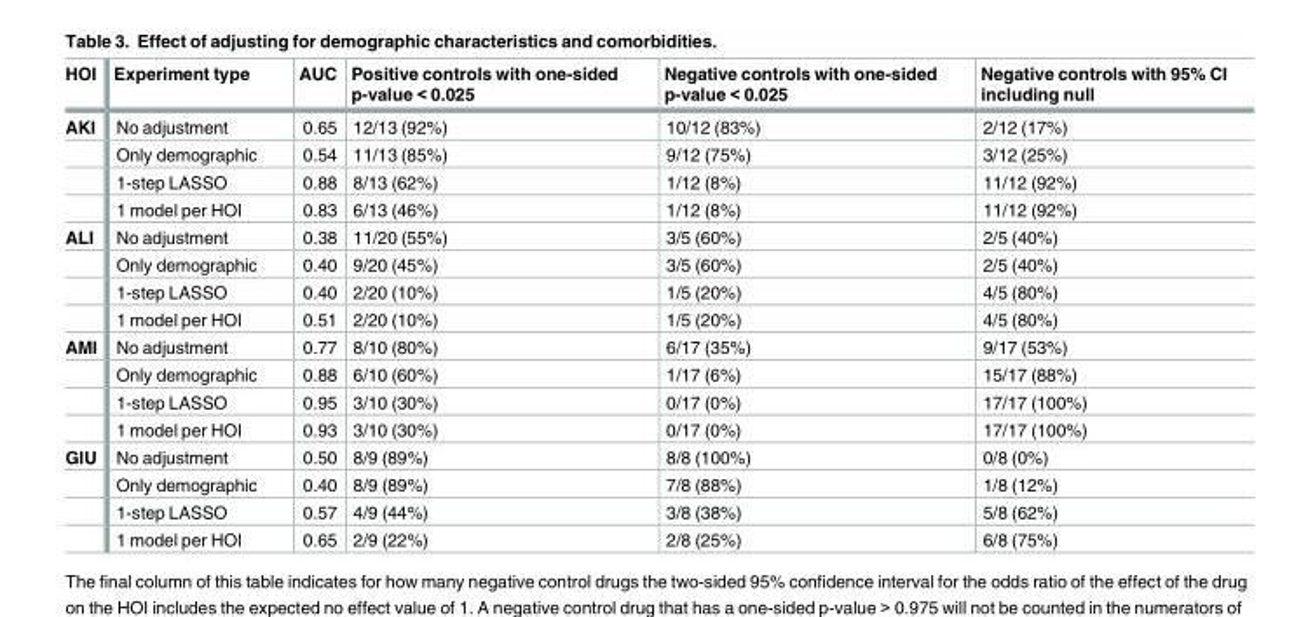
<table><thead><tr><td>HOI</td><td>Experiment type</td><td>AUC</td><td>Positive controls with one-sided p-value &lt; 0.025</td><td>Negative controls with one-sided p-value &lt; 0.025</td><td>Negative controls with 95% CI including null</td></tr></thead><tbody><tr><td rowspan="4">AKI</td><td>No adjustment</td><td>0.65</td><td>12/13 (92%)</td><td>10/12 (83%)</td><td>2/12 (17%)</td></tr><tr><td>Only demographic</td><td>0.54</td><td>11/13 (85%)</td><td>9/12 (75%)</td><td>3/12 (25%)</td></tr><tr><td>1-step LASSO</td><td>0.88</td><td>8/13 (62%)</td><td>1/12 (8%)</td><td>11/12 (92%)</td></tr><tr><td>1 model per HOI</td><td>0.83</td><td>6/13 (46%)</td><td>1/12 (8%)</td><td>11/12 (92%)</td></tr><tr><td rowspan="4">ALI</td><td>No adjustment</td><td>0.38</td><td>11/20 (55%)</td><td>3/5 (60%)</td><td>2/5 (40%)</td></tr><tr><td>Only demographic</td><td>0.40</td><td>9/20 (45%)</td><td>3/5 (60%)</td><td>2/5 (40%)</td></tr><tr><td>1-step LASSO</td><td>0.40</td><td>2/20 (10%)</td><td>1/5 (20%)</td><td>4/5 (80%)</td></tr><tr><td>1 model per HOI</td><td>0.51</td><td>2/20 (10%)</td><td>1/5 (20%)</td><td>4/5 (80%)</td></tr><tr><td rowspan="4">AMI</td><td>No adjustment</td><td>0.77</td><td>8/10 (80%)</td><td>6/17 (35%)</td><td>9/17 (53%)</td></tr><tr><td>Only demographic</td><td>0.88</td><td>6/10 (60%)</td><td>1/17 (6%)</td><td>15/17 (88%)</td></tr><tr><td>1-step LASSO</td><td>0.95</td><td>3/10 (30%)</td><td>0/17 (0%)</td><td>17/17 (100%)</td></tr><tr><td>1 model per HOI</td><td>0.93</td><td>3/10 (30%)</td><td>0/17 (0%)</td><td>17/17 (100%)</td></tr><tr><td rowspan="4">GIU</td><td>No adjustment</td><td>0.50</td><td>8/9 (89%)</td><td>8/8 (100%)</td><td>0/8 (0%)</td></tr><tr><td>Only demographic</td><td>0.40</td><td>8/9 (89%)</td><td>7/8 (88%)</td><td>1/8 (12%)</td></tr><tr><td>1-step LASSO</td><td>0.57</td><td>4/9 (44%)</td><td>3/8 (38%)</td><td>5/8 (62%)</td></tr><tr><td>1 model per HOI</td><td>0.65</td><td>2/9 (22%)</td><td>2/8 (25%)</td><td>6/8 (75%)</td></tr></tbody></table>